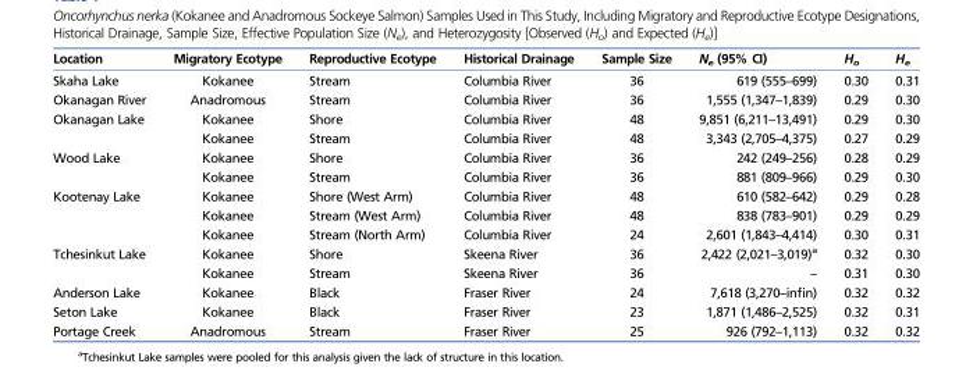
<table><thead><tr><td>Location</td><td>Migratory Ecotype</td><td>Reproductive Ecotype</td><td>Historical Drainage</td><td>Sample Size</td><td>N<sub>e</sub> (95% CI)</td><td>H<sub>o</sub></td><td>H<sub>e</sub></td></tr></thead><tbody><tr><td>Skaha Lake</td><td>Kokanee</td><td>Stream</td><td>Columbia River</td><td>36</td><td>619 (555–699)</td><td>0.30</td><td>0.31</td></tr><tr><td>Okanagan River</td><td>Anadromous</td><td>Stream</td><td>Columbia River</td><td>36</td><td>1,555 (1,347–1,839)</td><td>0.29</td><td>0.30</td></tr><tr><td rowspan="2">Okanagan Lake</td><td>Kokanee</td><td>Shore</td><td>Columbia River</td><td>48</td><td>9,851 (6,211–13,491)</td><td>0.29</td><td>0.30</td></tr><tr><td>Kokanee</td><td>Stream</td><td>Columbia River</td><td>48</td><td>3,343 (2,705–4,375)</td><td>0.27</td><td>0.29</td></tr><tr><td rowspan="2">Wood Lake</td><td>Kokanee</td><td>Shore</td><td>Columbia River</td><td>36</td><td>242 (249–256)</td><td>0.28</td><td>0.29</td></tr><tr><td>Kokanee</td><td>Stream</td><td>Columbia River</td><td>36</td><td>881 (809–966)</td><td>0.29</td><td>0.30</td></tr><tr><td rowspan="3">Kootenay Lake</td><td>Kokanee</td><td>Shore (West Arm)</td><td>Columbia River</td><td>48</td><td>610 (582–642)</td><td>0.29</td><td>0.28</td></tr><tr><td>Kokanee</td><td>Stream (West Arm)</td><td>Columbia River</td><td>48</td><td>838 (783–901)</td><td>0.29</td><td>0.29</td></tr><tr><td>Kokanee</td><td>Stream (North Arm)</td><td>Columbia River</td><td>24</td><td>2,601 (1,843–4,414)</td><td>0.30</td><td>0.31</td></tr><tr><td rowspan="2">Tchesinkut Lake</td><td>Kokanee</td><td>Shore</td><td>Skeena River</td><td>36</td><td>2,422 (2,021–3,019)<sup>a</sup></td><td>0.32</td><td>0.30</td></tr><tr><td>Kokanee</td><td>Stream</td><td>Skeena River</td><td>36</td><td>–</td><td>0.31</td><td>0.30</td></tr><tr><td>Anderson Lake</td><td>Kokanee</td><td>Black</td><td>Fraser River</td><td>24</td><td>7,618 (3,270–infin)</td><td>0.32</td><td>0.32</td></tr><tr><td>Seton Lake</td><td>Kokanee</td><td>Black</td><td>Fraser River</td><td>23</td><td>1,871 (1,486–2,525)</td><td>0.32</td><td>0.31</td></tr><tr><td>Portage Creek</td><td>Anadromous</td><td>Stream</td><td>Fraser River</td><td>25</td><td>926 (792–1,113)</td><td>0.32</td><td>0.32</td></tr></tbody></table>